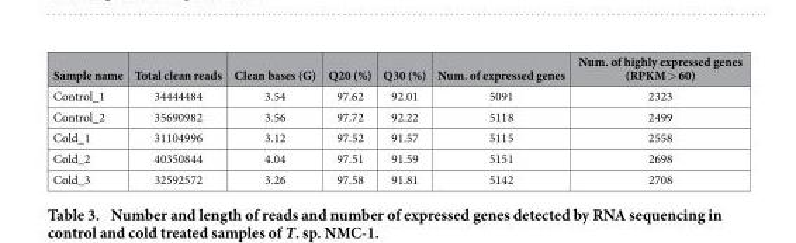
<table><thead><tr><td>Sample name</td><td>Total clean reads</td><td>Clean bases (G)</td><td>Q20 (%)</td><td>Q30 (%)</td><td>Num. of expressed genes</td><td>Num. of highly expressed genes (RPKM &gt; 60)</td></tr></thead><tbody><tr><td>Control_1</td><td>34444484</td><td>3.54</td><td>97.62</td><td>92.01</td><td>5091</td><td>2323</td></tr><tr><td>Control_2</td><td>35690982</td><td>3.56</td><td>97.72</td><td>92.22</td><td>5118</td><td>2499</td></tr><tr><td>Cold_1</td><td>31104996</td><td>3.12</td><td>97.52</td><td>91.57</td><td>5115</td><td>2558</td></tr><tr><td>Cold_2</td><td>40350844</td><td>4.04</td><td>97.51</td><td>91.59</td><td>5151</td><td>2698</td></tr><tr><td>Cold_3</td><td>32592572</td><td>3.26</td><td>97.58</td><td>91.81</td><td>5142</td><td>2708</td></tr></tbody></table>